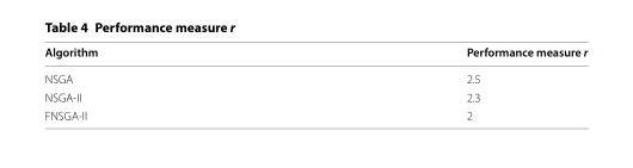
<table><thead><tr><td>Algorithm</td><td>Performance measure r</td></tr></thead><tbody><tr><td>NSGA</td><td>2.5</td></tr><tr><td>NSGA-II</td><td>2.3</td></tr><tr><td>FNSGA-II</td><td>2</td></tr></tbody></table>